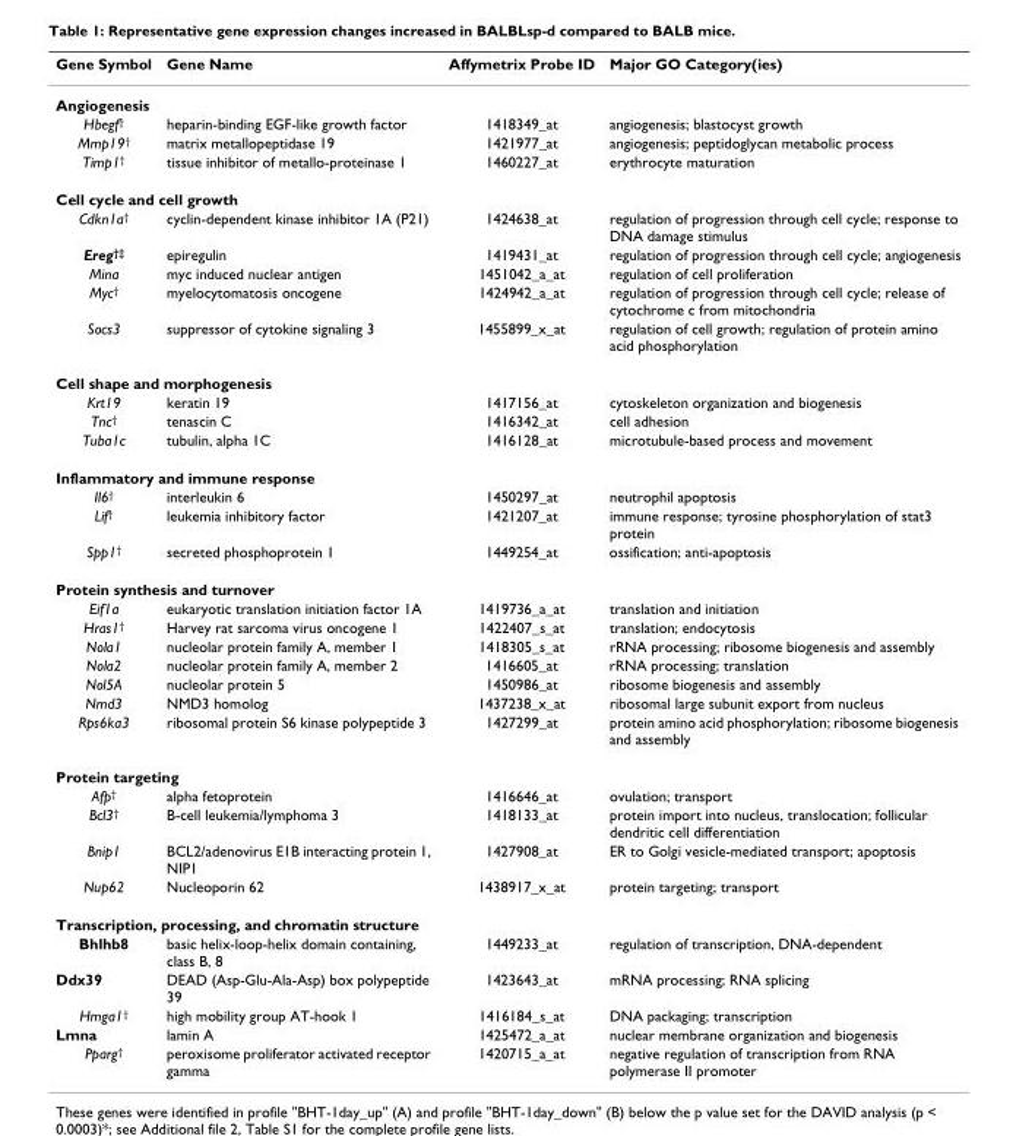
<table><tbody><tr><td>Gene Symbol</td><td>Gene Name</td><td>Affymetrix Probe ID</td><td>Major GO Category(ies)</td></tr><tr><td colspan="4">Angiogenesis</td></tr><tr><td>Hbegf<sup>†</sup></td><td>heparin-binding EGF-like growth factor</td><td>1418349_at</td><td>angiogenesis; blastocyst growth</td></tr><tr><td>Mmp19<sup>†</sup></td><td>matrix metallopeptidase 19</td><td>1421977_at</td><td>angiogenesis; peptidoglycan metabolic process</td></tr><tr><td>Timp1<sup>†</sup></td><td>tissue inhibitor of metallo-proteinase 1</td><td>1460227_at</td><td>erythrocyte maturation</td></tr><tr><td colspan="4">Cell cycle and cell growth</td></tr><tr><td>Cdkn1a<sup>†</sup></td><td>cyclin-dependent kinase inhibitor 1A (P21)</td><td>1424638_at</td><td>regulation of progression through cell cycle; response to DNA damage stimulus</td></tr><tr><td>Ereg<sup>†‡</sup></td><td>epiregulin</td><td>1419431_at</td><td>regulation of progression through cell cycle; angiogenesis</td></tr><tr><td>Mina</td><td>myc induced nuclear antigen</td><td>1451042_a_at</td><td>regulation of cell proliferation</td></tr><tr><td>Myc<sup>†</sup></td><td>myelocytomatosis oncogene</td><td>1424942_a_at</td><td>regulation of progression through cell cycle; release of cytochrome c from mitochondria</td></tr><tr><td>Socs3</td><td>suppressor of cytokine signaling 3</td><td>1455899_x_at</td><td>regulation of cell growth; regulation of protein amino acid phosphorylation</td></tr><tr><td colspan="4">Cell shape and morphogenesis</td></tr><tr><td>Krt19</td><td>keratin 19</td><td>1417156_at</td><td>cytoskeleton organization and biogenesis</td></tr><tr><td>Tnc<sup>†</sup></td><td>tenascin C</td><td>1416342_at</td><td>cell adhesion</td></tr><tr><td>Tuba1c</td><td>tubulin, alpha 1C</td><td>1416128_at</td><td>microtubule-based process and movement</td></tr><tr><td colspan="4">Inflammatory and immune response</td></tr><tr><td>Il6<sup>†</sup></td><td>interleukin 6</td><td>1450297_at</td><td>neutrophil apoptosis</td></tr><tr><td>Lif<sup>†</sup></td><td>leukemia inhibitory factor</td><td>1421207_at</td><td>immune response; tyrosine phosphorylation of stat3 protein</td></tr><tr><td>Spp1<sup>†</sup></td><td>secreted phosphoprotein 1</td><td>1449254_at</td><td>ossification; anti-apoptosis</td></tr><tr><td colspan="4">Protein synthesis and turnover</td></tr><tr><td>Eif1a</td><td>eukaryotic translation initiation factor 1A</td><td>1419736_a_at</td><td>translation and initiation</td></tr><tr><td>Hras1<sup>†</sup></td><td>Harvey rat sarcoma virus oncogene 1</td><td>1422407_s_at</td><td>translation; endocytosis</td></tr><tr><td>Nola1</td><td>nucleolar protein family A, member 1</td><td>1418305_s_at</td><td>rRNA processing; ribosome biogenesis and assembly</td></tr><tr><td>Nola2</td><td>nucleolar protein family A, member 2</td><td>1416605_at</td><td>rRNA processing; translation</td></tr><tr><td>Nol5A</td><td>nucleolar protein 5</td><td>1450986_at</td><td>ribosome biogenesis and assembly</td></tr><tr><td>Nmd3</td><td>NMD3 homolog</td><td>1437238_x_at</td><td>ribosomal large subunit export from nucleus</td></tr><tr><td>Rps6ka3</td><td>ribosomal protein S6 kinase polypeptide 3</td><td>1427299_at</td><td>protein amino acid phosphorylation; ribosome biogenesis and assembly</td></tr><tr><td colspan="4">Protein targeting</td></tr><tr><td>Afp<sup>†</sup></td><td>alpha fetoprotein</td><td>1416646_at</td><td>ovulation; transport</td></tr><tr><td>Bcl3<sup>†</sup></td><td>B-cell leukemia/lymphoma 3</td><td>1418133_at</td><td>protein import into nucleus, translocation; follicular dendritic cell differentiation</td></tr><tr><td>Bnip1</td><td>BCL2/adenovirus E1B interacting protein 1, NIP1</td><td>1427908_at</td><td>ER to Golgi vesicle-mediated transport; apoptosis</td></tr><tr><td>Nup62</td><td>Nucleoporin 62</td><td>1438917_x_at</td><td>protein targeting; transport</td></tr><tr><td colspan="4">Transcription, processing, and chromatin structure</td></tr><tr><td>Bhlhb8</td><td>basic helix-loop-helix domain containing, class B, 8</td><td>1449233_at</td><td>regulation of transcription, DNA-dependent</td></tr><tr><td>Ddx39</td><td>DEAD (Asp-Glu-Ala-Asp) box polypeptide 39</td><td>1423643_at</td><td>mRNA processing; RNA splicing</td></tr><tr><td>Hmga1<sup>†</sup></td><td>high mobility group AT-hook 1</td><td>1416184_s_at</td><td>DNA packaging; transcription</td></tr><tr><td>Lmna</td><td>lamin A</td><td>1425472_a_at</td><td>nuclear membrane organization and biogenesis</td></tr><tr><td>Pparg<sup>†</sup></td><td>peroxisome proliferator activated receptor gamma</td><td>1420715_a_at</td><td>negative regulation of transcription from RNA polymerase II promoter</td></tr></tbody></table>